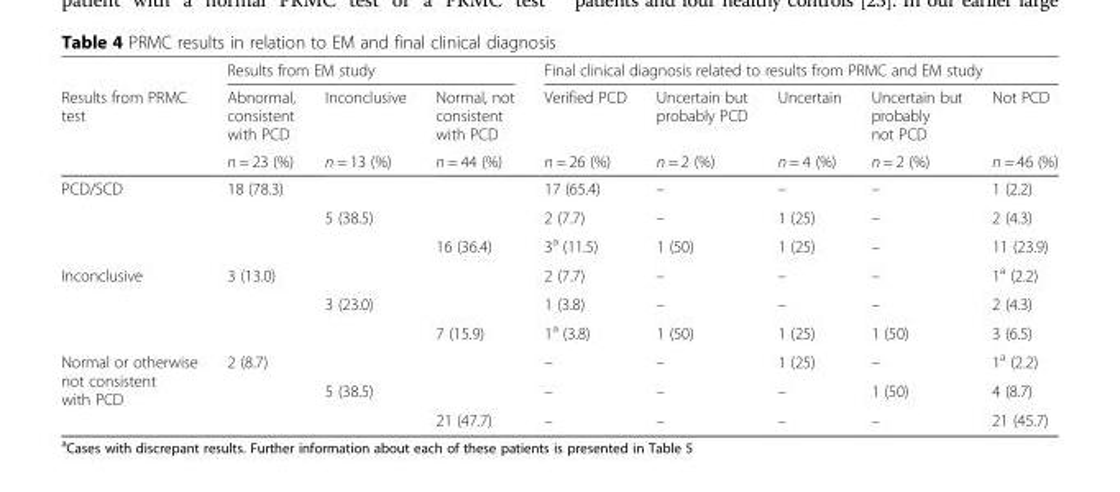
<table><thead><tr><td rowspan="3">Results from PRMC test</td><td colspan="3">Results from EM study</td><td colspan="5">Final clinical diagnosis related to results from PRMC and EM study</td></tr><tr><td rowspan="2">Abnormal, consistent with PCD n = 23 (%)</td><td rowspan="2">Inconclusive n = 13 (%)</td><td rowspan="2">Normal, not consistent with PCD n = 44 (%)</td><td rowspan="2">Verified PCD n = 26 (%)</td><td rowspan="2">Uncertain but probably PCD n = 2 (%)</td><td rowspan="2">Uncertain n = 4 (%)</td><td rowspan="2">Uncertain but probably not PCD n = 2 (%)</td><td rowspan="2">Not PCD n = 46 (%)</td></tr><tr></tr></thead><tbody><tr><td rowspan="3">PCD/SCD</td><td>18 (78.3)</td><td></td><td rowspan="2"></td><td>17 (65.4)</td><td>–</td><td>–</td><td>–</td><td>1 (2.2)</td></tr><tr><td rowspan="2"></td><td>5 (38.5)</td><td>2 (7.7)</td><td>–</td><td>1 (25)</td><td>–</td><td>2 (4.3)</td></tr><tr><td></td><td>16 (36.4)</td><td>3<sup>a</sup> (11.5)</td><td>1 (50)</td><td>1 (25)</td><td>–</td><td>11 (23.9)</td></tr><tr><td rowspan="3">Inconclusive</td><td>3 (13.0)</td><td></td><td rowspan="2"></td><td>2 (7.7)</td><td>–</td><td>–</td><td>–</td><td>1<sup>a</sup> (2.2)</td></tr><tr><td rowspan="2"></td><td>3 (23.0)</td><td>1 (3.8)</td><td>–</td><td>–</td><td>–</td><td>2 (4.3)</td></tr><tr><td></td><td>7 (15.9)</td><td>1<sup>a</sup> (3.8)</td><td>1 (50)</td><td>1 (25)</td><td>1 (50)</td><td>3 (6.5)</td></tr><tr><td rowspan="3">Normal or otherwise not consistent with PCD</td><td>2 (8.7)</td><td></td><td rowspan="2"></td><td>–</td><td>–</td><td>1 (25)</td><td>–</td><td>1<sup>a</sup> (2.2)</td></tr><tr><td rowspan="2"></td><td>5 (38.5)</td><td>–</td><td>–</td><td>–</td><td>1 (50)</td><td>4 (8.7)</td></tr><tr><td></td><td>21 (47.7)</td><td>–</td><td>–</td><td>–</td><td>–</td><td>21 (45.7)</td></tr></tbody></table>